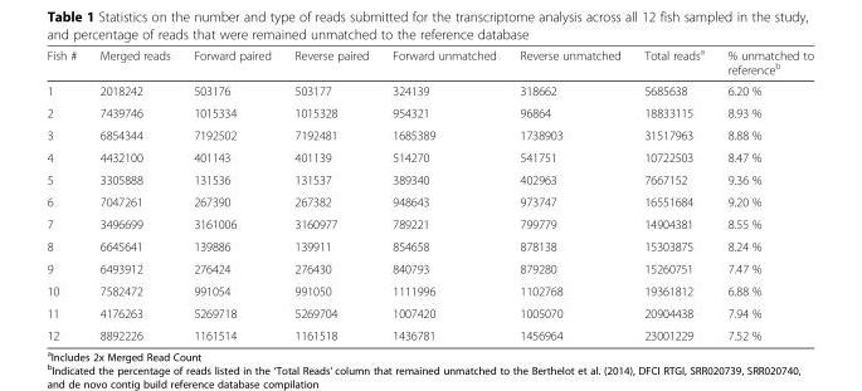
<table><thead><tr><td>Fish #</td><td>Merged reads</td><td>Forward paired</td><td>Reverse paired</td><td>Forward unmatched</td><td>Reverse unmatched</td><td>Total reads<sup>a</sup></td><td>% unmatched to reference<sup>b</sup></td></tr></thead><tbody><tr><td>1</td><td>2018242</td><td>503176</td><td>503177</td><td>324139</td><td>318662</td><td>5685638</td><td>6.20 %</td></tr><tr><td>2</td><td>7439746</td><td>1015334</td><td>1015328</td><td>954321</td><td>96864</td><td>18833115</td><td>8.93 %</td></tr><tr><td>3</td><td>6854344</td><td>7192502</td><td>7192481</td><td>1685389</td><td>1738903</td><td>31517963</td><td>8.88 %</td></tr><tr><td>4</td><td>4432100</td><td>401143</td><td>401139</td><td>514270</td><td>541751</td><td>10722503</td><td>8.47 %</td></tr><tr><td>5</td><td>3305888</td><td>131536</td><td>131537</td><td>389340</td><td>402963</td><td>7667152</td><td>9.36 %</td></tr><tr><td>6</td><td>7047261</td><td>267390</td><td>267382</td><td>948643</td><td>973747</td><td>16551684</td><td>9.20 %</td></tr><tr><td>7</td><td>3496699</td><td>3161006</td><td>3160977</td><td>789221</td><td>799779</td><td>14904381</td><td>8.55 %</td></tr><tr><td>8</td><td>6645641</td><td>139886</td><td>139911</td><td>854658</td><td>878138</td><td>15303875</td><td>8.24 %</td></tr><tr><td>9</td><td>6493912</td><td>276424</td><td>276430</td><td>840793</td><td>879280</td><td>15260751</td><td>7.47 %</td></tr><tr><td>10</td><td>7582472</td><td>991054</td><td>991050</td><td>1111996</td><td>1102768</td><td>19361812</td><td>6.88 %</td></tr><tr><td>11</td><td>4176263</td><td>5269718</td><td>5269704</td><td>1007420</td><td>1005070</td><td>20904438</td><td>7.94 %</td></tr><tr><td>12</td><td>8892226</td><td>1161514</td><td>1161518</td><td>1436781</td><td>1456964</td><td>23001229</td><td>7.52 %</td></tr></tbody></table>